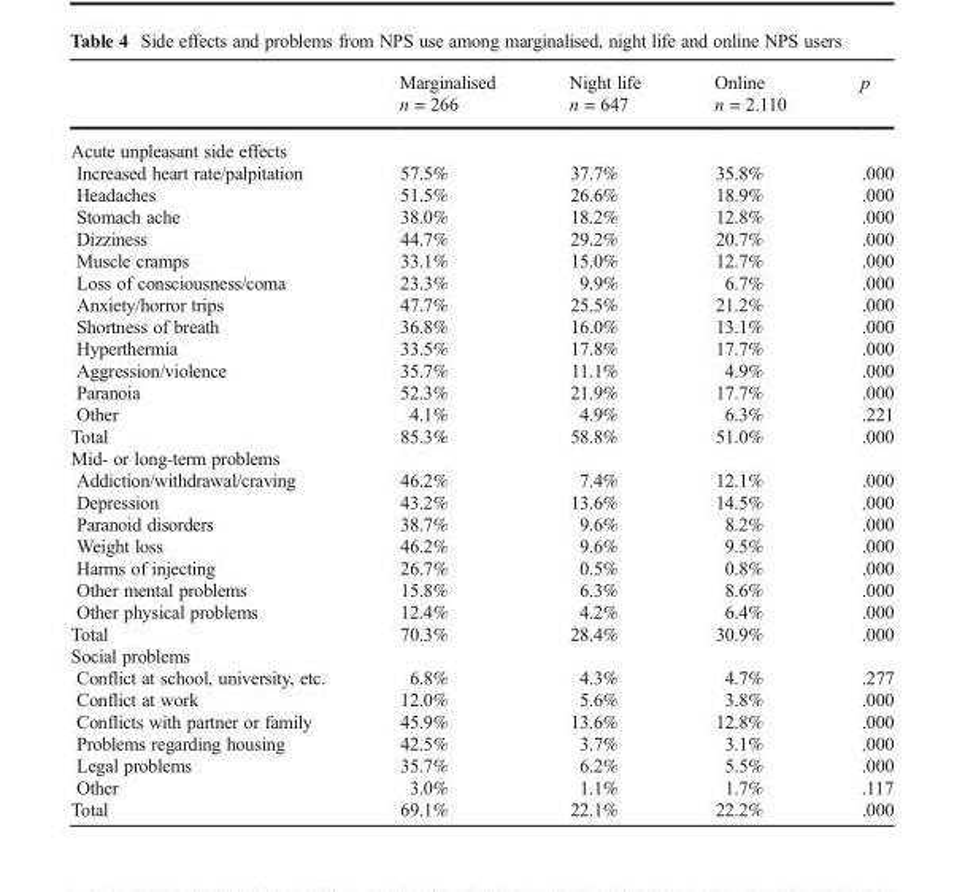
<table><thead><tr><td></td><td>Marginalised n = 266</td><td>Night life n = 647</td><td>Online n = 2.110</td><td>p</td></tr></thead><tbody><tr><td colspan="5">Acute unpleasant side effects</td></tr><tr><td>Increased heart rate/palpitation</td><td>57.5%</td><td>37.7%</td><td>35.8%</td><td>.000</td></tr><tr><td>Headaches</td><td>51.5%</td><td>26.6%</td><td>18.9%</td><td>.000</td></tr><tr><td>Stomach ache</td><td>38.0%</td><td>18.2%</td><td>12.8%</td><td>.000</td></tr><tr><td>Dizziness</td><td>44.7%</td><td>29.2%</td><td>20.7%</td><td>.000</td></tr><tr><td>Muscle cramps</td><td>33.1%</td><td>15.0%</td><td>12.7%</td><td>.000</td></tr><tr><td>Loss of consciousness/coma</td><td>23.3%</td><td>9.9%</td><td>6.7%</td><td>.000</td></tr><tr><td>Anxiety/horror trips</td><td>47.7%</td><td>25.5%</td><td>21.2%</td><td>.000</td></tr><tr><td>Shortness of breath</td><td>36.8%</td><td>16.0%</td><td>13.1%</td><td>.000</td></tr><tr><td>Hyperthermia</td><td>33.5%</td><td>17.8%</td><td>17.7%</td><td>.000</td></tr><tr><td>Aggression/violence</td><td>35.7%</td><td>11.1%</td><td>4.9%</td><td>.000</td></tr><tr><td>Paranoia</td><td>52.3%</td><td>21.9%</td><td>17.7%</td><td>.000</td></tr><tr><td>Other</td><td>4.1%</td><td>4.9%</td><td>6.3%</td><td>.221</td></tr><tr><td>Total</td><td>85.3%</td><td>58.8%</td><td>51.0%</td><td>.000</td></tr><tr><td colspan="5">Mid- or long-term problems</td></tr><tr><td>Addiction/withdrawal/craving</td><td>46.2%</td><td>7.4%</td><td>12.1%</td><td>.000</td></tr><tr><td>Depression</td><td>43.2%</td><td>13.6%</td><td>14.5%</td><td>.000</td></tr><tr><td>Paranoid disorders</td><td>38.7%</td><td>9.6%</td><td>8.2%</td><td>.000</td></tr><tr><td>Weight loss</td><td>46.2%</td><td>9.6%</td><td>9.5%</td><td>.000</td></tr><tr><td>Harms of injecting</td><td>26.7%</td><td>0.5%</td><td>0.8%</td><td>.000</td></tr><tr><td>Other mental problems</td><td>15.8%</td><td>6.3%</td><td>8.6%</td><td>.000</td></tr><tr><td>Other physical problems</td><td>12.4%</td><td>4.2%</td><td>6.4%</td><td>.000</td></tr><tr><td>Total</td><td>70.3%</td><td>28.4%</td><td>30.9%</td><td>.000</td></tr><tr><td colspan="5">Social problems</td></tr><tr><td>Conflict at school, university, etc.</td><td>6.8%</td><td>4.3%</td><td>4.7%</td><td>.277</td></tr><tr><td>Conflict at work</td><td>12.0%</td><td>5.6%</td><td>3.8%</td><td>.000</td></tr><tr><td>Conflicts with partner or family</td><td>45.9%</td><td>13.6%</td><td>12.8%</td><td>.000</td></tr><tr><td>Problems regarding housing</td><td>42.5%</td><td>3.7%</td><td>3.1%</td><td>.000</td></tr><tr><td>Legal problems</td><td>35.7%</td><td>6.2%</td><td>5.5%</td><td>.000</td></tr><tr><td>Other</td><td>3.0%</td><td>1.1%</td><td>1.7%</td><td>.117</td></tr><tr><td>Total</td><td>69.1%</td><td>22.1%</td><td>22.2%</td><td>.000</td></tr></tbody></table>